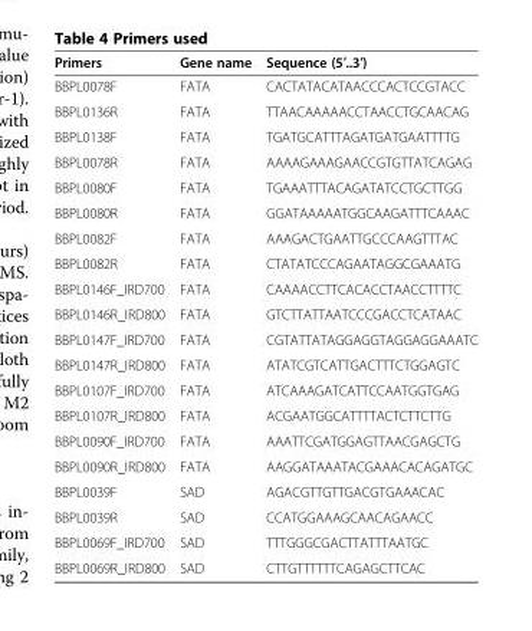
<table><thead><tr><td>Primers</td><td>Gene name</td><td>Sequence (5′..3′)</td></tr></thead><tbody><tr><td>BBPL0078F</td><td>FATA</td><td>CACTATACATAACCCACTCCGTACC</td></tr><tr><td>BBPL0136R</td><td>FATA</td><td>TTAACAAAAACCTAACCTGCAACAG</td></tr><tr><td>BBPL0138F</td><td>FATA</td><td>TGATGCATTTAGATGATGAATTTTG</td></tr><tr><td>BBPL0078R</td><td>FATA</td><td>AAAAGAAAGAACCGTGTTATCAGAG</td></tr><tr><td>BBPL0080F</td><td>FATA</td><td>TGAAATTTACAGATATCCTGCTTGG</td></tr><tr><td>BBPL0080R</td><td>FATA</td><td>GGATAAAAATGGCAAGATTTCAAAC</td></tr><tr><td>BBPL0082F</td><td>FATA</td><td>AAAGACTGAATTGCCCAAGTTTAC</td></tr><tr><td>BBPL0082R</td><td>FATA</td><td>CTATATCCCAGAATAGGCGAAATG</td></tr><tr><td>BBPL0146F_IRD700</td><td>FATA</td><td>CAAAACCTTCACACCTAACCTTTTC</td></tr><tr><td>BBPL0146R_IRD800</td><td>FATA</td><td>GTCTTATTAATCCCGACCTCATAAC</td></tr><tr><td>BBPL0147F_IRD700</td><td>FATA</td><td>CGTATTATAGGAGGTAGGAGGAAATC</td></tr><tr><td>BBPL0147R_IRD800</td><td>FATA</td><td>ATATCGTCATTGACTTTCTGGAGTC</td></tr><tr><td>BBPL0107F_IRD700</td><td>FATA</td><td>ATCAAAGATCATTCCAATGGTGAG</td></tr><tr><td>BBPL0107R_IRD800</td><td>FATA</td><td>ACGAATGGCATTTTACTCTTCTTG</td></tr><tr><td>BBPL0090F_IRD700</td><td>FATA</td><td>AAATTCGATGGAGTTAACGAGCTG</td></tr><tr><td>BBPL0090R_IRD800</td><td>FATA</td><td>AAGGATAAATACGAAACACAGATGC</td></tr><tr><td>BBPL0039F</td><td>SAD</td><td>AGACGTTGTTGACGTGAAACAC</td></tr><tr><td>BBPL0039R</td><td>SAD</td><td>CCATGGAAAGCAACAGAACC</td></tr><tr><td>BBPL0069F_IRD700</td><td>SAD</td><td>TTTGGGCGACTTATTTAATGC</td></tr><tr><td>BBPL0069R_IRD800</td><td>SAD</td><td>CTTGTTTTTTCAGAGCTTCAC</td></tr></tbody></table>